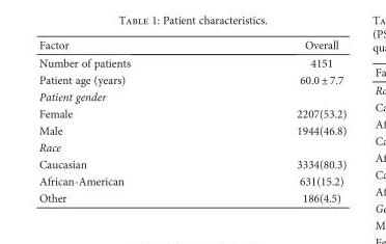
<table><thead><tr><td>Factor</td><td>Overall</td></tr></thead><tbody><tr><td>Number of patients</td><td>4151</td></tr><tr><td>Patient age (years)</td><td>60.0 ± 7.7</td></tr><tr><td colspan="2">Patient gender</td></tr><tr><td>Female</td><td>2207(53.2)</td></tr><tr><td>Male</td><td>1944(46.8)</td></tr><tr><td colspan="2">Race</td></tr><tr><td>Caucasian</td><td>3334(80.3)</td></tr><tr><td>African-American</td><td>631(15.2)</td></tr><tr><td>Other</td><td>186(4.5)</td></tr></tbody></table>